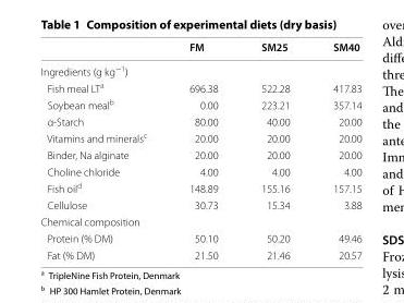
<table><thead><tr><td></td><td>FM</td><td>SM25</td><td>SM40</td></tr></thead><tbody><tr><td colspan="4">Ingredients (g kg<sup>−1</sup>)</td></tr><tr><td>Fish meal LT<sup>a</sup></td><td>696.38</td><td>522.28</td><td>417.83</td></tr><tr><td>Soybean meal<sup>b</sup></td><td>0.00</td><td>223.21</td><td>357.14</td></tr><tr><td>α-Starch</td><td>80.00</td><td>40.00</td><td>20.00</td></tr><tr><td>Vitamins and minerals<sup>c</sup></td><td>20.00</td><td>20.00</td><td>20.00</td></tr><tr><td>Binder, Na alginate</td><td>20.00</td><td>20.00</td><td>20.00</td></tr><tr><td>Choline chloride</td><td>4.00</td><td>4.00</td><td>4.00</td></tr><tr><td>Fish oil<sup>d</sup></td><td>148.89</td><td>155.16</td><td>157.15</td></tr><tr><td>Cellulose</td><td>30.73</td><td>15.34</td><td>3.88</td></tr><tr><td colspan="4">Chemical composition</td></tr><tr><td>Protein (% DM)</td><td>50.10</td><td>50.20</td><td>49.46</td></tr><tr><td>Fat (% DM)</td><td>21.50</td><td>21.46</td><td>20.57</td></tr></tbody></table>